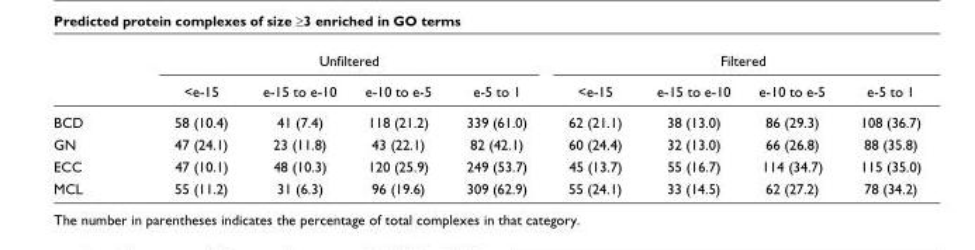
<table><thead><tr><td rowspan="2"></td><td colspan="4">Unfiltered</td><td colspan="4">Filtered</td></tr><tr><td>&lt;e-15</td><td>e-15 to e-10</td><td>e-10 to e-5</td><td>e-5 to 1</td><td>&lt;e-15</td><td>e-15 to e-10</td><td>e-10 to e-5</td><td>e-5 to 1</td></tr></thead><tbody><tr><td>BCD</td><td>58 (10.4)</td><td>41 (7.4)</td><td>118 (21.2)</td><td>339 (61.0)</td><td>62 (21.1)</td><td>38 (13.0)</td><td>86 (29.3)</td><td>108 (36.7)</td></tr><tr><td>GN</td><td>47 (24.1)</td><td>23 (11.8)</td><td>43 (22.1)</td><td>82 (42.1)</td><td>60 (24.4)</td><td>32 (13.0)</td><td>66 (26.8)</td><td>88 (35.8)</td></tr><tr><td>ECC</td><td>47 (10.1)</td><td>48 (10.3)</td><td>120 (25.9)</td><td>249 (53.7)</td><td>45 (13.7)</td><td>55 (16.7)</td><td>114 (34.7)</td><td>115 (35.0)</td></tr><tr><td>MCL</td><td>55 (11.2)</td><td>31 (6.3)</td><td>96 (19.6)</td><td>309 (62.9)</td><td>55 (24.1)</td><td>33 (14.5)</td><td>62 (27.2)</td><td>78 (34.2)</td></tr></tbody></table>